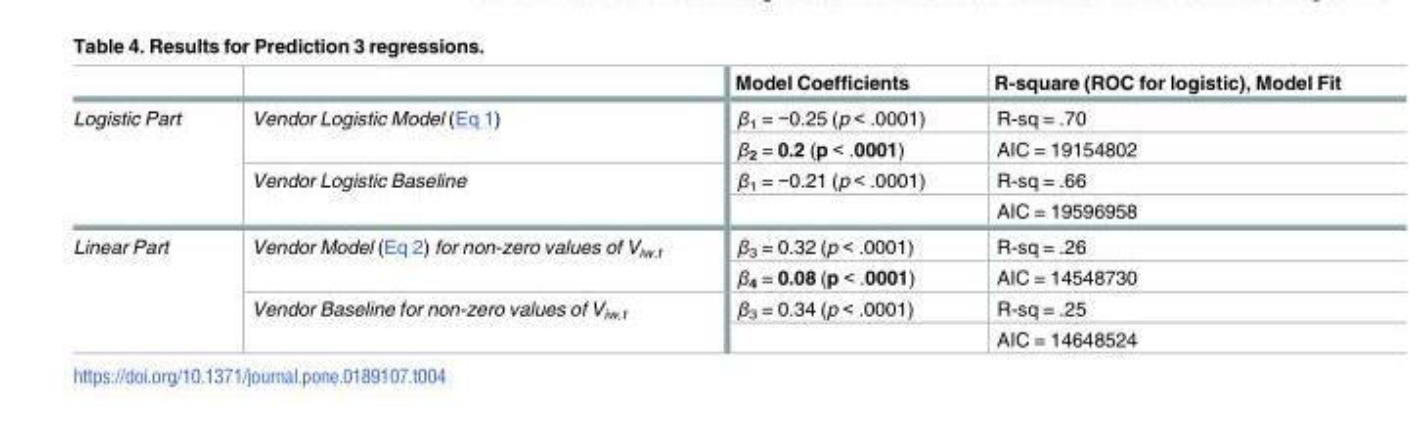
<table><thead><tr><td></td><td></td><td>Model Coefficients</td><td>R-square (ROC for logistic), Model Fit</td></tr></thead><tbody><tr><td rowspan="4">Logistic Part</td><td rowspan="2">Vendor Logistic Model (Eq 1)</td><td>β<sub>1</sub> = −0.25 (p &lt; .0001)</td><td>R-sq = .70</td></tr><tr><td>β<sub>2</sub> = 0.2 (p &lt; .0001)</td><td>AIC = 19154802</td></tr><tr><td rowspan="2">Vendor Logistic Baseline</td><td>β<sub>1</sub> = −0.21 (p &lt; .0001)</td><td>R-sq = .66</td></tr><tr><td></td><td>AIC = 19596958</td></tr><tr><td rowspan="4">Linear Part</td><td rowspan="2">Vendor Model (Eq 2) for non-zero values of V<sub>iw,t</sub></td><td>β<sub>3</sub> = 0.32 (p &lt; .0001)</td><td>R-sq = .26</td></tr><tr><td>β<sub>4</sub> = 0.08 (p &lt; .0001)</td><td>AIC = 14548730</td></tr><tr><td rowspan="2">Vendor Baseline for non-zero values of V<sub>iw,t</sub></td><td>β<sub>3</sub> = 0.34 (p &lt; .0001)</td><td>R-sq = .25</td></tr><tr><td></td><td>AIC = 14648524</td></tr></tbody></table>